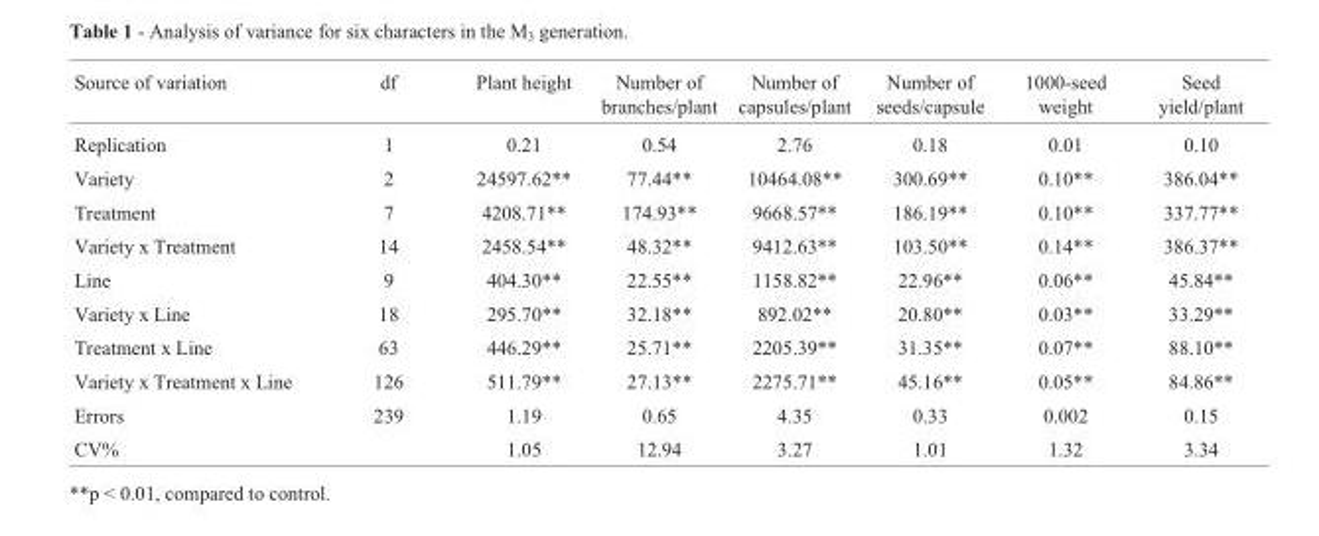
<table><thead><tr><td>Source of variation</td><td>df</td><td>Plant height</td><td>Number of branches/plant</td><td>Number of capsules/plant</td><td>Number of seeds/capsule</td><td>1000-seed weight</td><td>Seed yield/plant</td></tr></thead><tbody><tr><td>Replication</td><td>1</td><td>0.21</td><td>0.54</td><td>2.76</td><td>0.18</td><td>0.01</td><td>0.10</td></tr><tr><td>Variety</td><td>2</td><td>24597.62**</td><td>77.44**</td><td>10464.08**</td><td>300.69**</td><td>0.10**</td><td>386.04**</td></tr><tr><td>Treatment</td><td>7</td><td>4208.71**</td><td>174.93**</td><td>9668.57**</td><td>186.19**</td><td>0.10**</td><td>337.77**</td></tr><tr><td>Variety x Treatment</td><td>14</td><td>2458.54**</td><td>48.32**</td><td>9412.63**</td><td>103.50**</td><td>0.14**</td><td>386.37**</td></tr><tr><td>Line</td><td>9</td><td>404.30**</td><td>22.55**</td><td>1158.82**</td><td>22.96**</td><td>0.06**</td><td>45.84**</td></tr><tr><td>Variety x Line</td><td>18</td><td>295.70**</td><td>32.18**</td><td>892.02**</td><td>20.80**</td><td>0.03**</td><td>33.29**</td></tr><tr><td>Treatment x Line</td><td>63</td><td>446.29**</td><td>25.71**</td><td>2205.39**</td><td>31.35**</td><td>0.07**</td><td>88.10**</td></tr><tr><td>Variety x Treatment x Line</td><td>126</td><td>511.79**</td><td>27.13**</td><td>2275.71**</td><td>45.16**</td><td>0.05**</td><td>84.86**</td></tr><tr><td>Errors</td><td>239</td><td>1.19</td><td>0.65</td><td>4.35</td><td>0.33</td><td>0.002</td><td>0.15</td></tr><tr><td>CV%</td><td></td><td>1.05</td><td>12.94</td><td>3.27</td><td>1.01</td><td>1.32</td><td>3.34</td></tr></tbody></table>